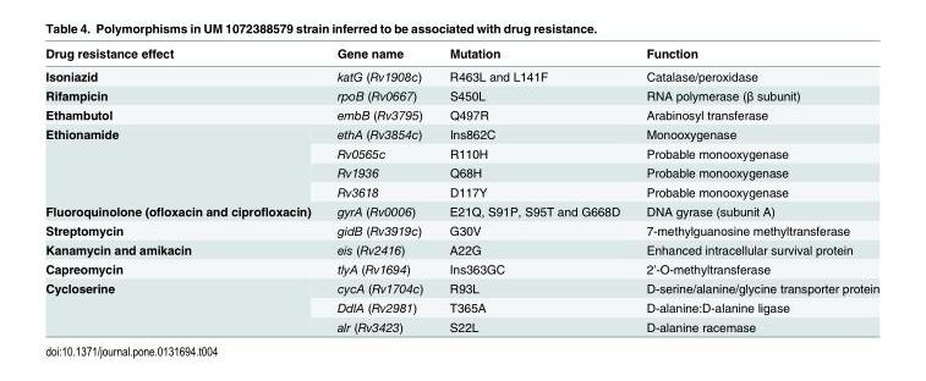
<table><thead><tr><td>Drug resistance effect</td><td>Gene name</td><td>Mutation</td><td>Function</td></tr></thead><tbody><tr><td>Isoniazid</td><td>katG (Rv1908c)</td><td>R463L and L141F</td><td>Catalase/peroxidase</td></tr><tr><td>Rifampicin</td><td>rpoB (Rv0667)</td><td>S450L</td><td>RNA polymerase (β subunit)</td></tr><tr><td>Ethambutol</td><td>embB (Rv3795)</td><td>Q497R</td><td>Arabinosyl transferase</td></tr><tr><td rowspan="4">Ethionamide</td><td>ethA (Rv3854c)</td><td>Ins862C</td><td>Monooxygenase</td></tr><tr><td>Rv0565c</td><td>R110H</td><td>Probable monooxygenase</td></tr><tr><td>Rv1936</td><td>Q68H</td><td>Probable monooxygenase</td></tr><tr><td>Rv3618</td><td>D117Y</td><td>Probable monooxygenase</td></tr><tr><td>Fluoroquinolone (ofloxacin and ciprofloxacin)</td><td>gyrA (Rv0006)</td><td>E21Q, S91P, S95T and G668D</td><td>DNA gyrase (subunit A)</td></tr><tr><td>Streptomycin</td><td>gidB (Rv3919c)</td><td>G30V</td><td>7-methylguanosine methyltransferase</td></tr><tr><td>Kanamycin and amikacin</td><td>eis (Rv2416)</td><td>A22G</td><td>Enhanced intracellular survival protein</td></tr><tr><td>Capreomycin</td><td>tlyA (Rv1694)</td><td>Ins363GC</td><td>2’-O-methyltransferase</td></tr><tr><td rowspan="3">Cycloserine</td><td>cycA (Rv1704c)</td><td>R93L</td><td>D-serine/alanine/glycine transporter protein</td></tr><tr><td>DdlA (Rv2981)</td><td>T365A</td><td>D-alanine:D-alanine ligase</td></tr><tr><td>alr (Rv3423)</td><td>S22L</td><td>D-alanine racemase</td></tr></tbody></table>